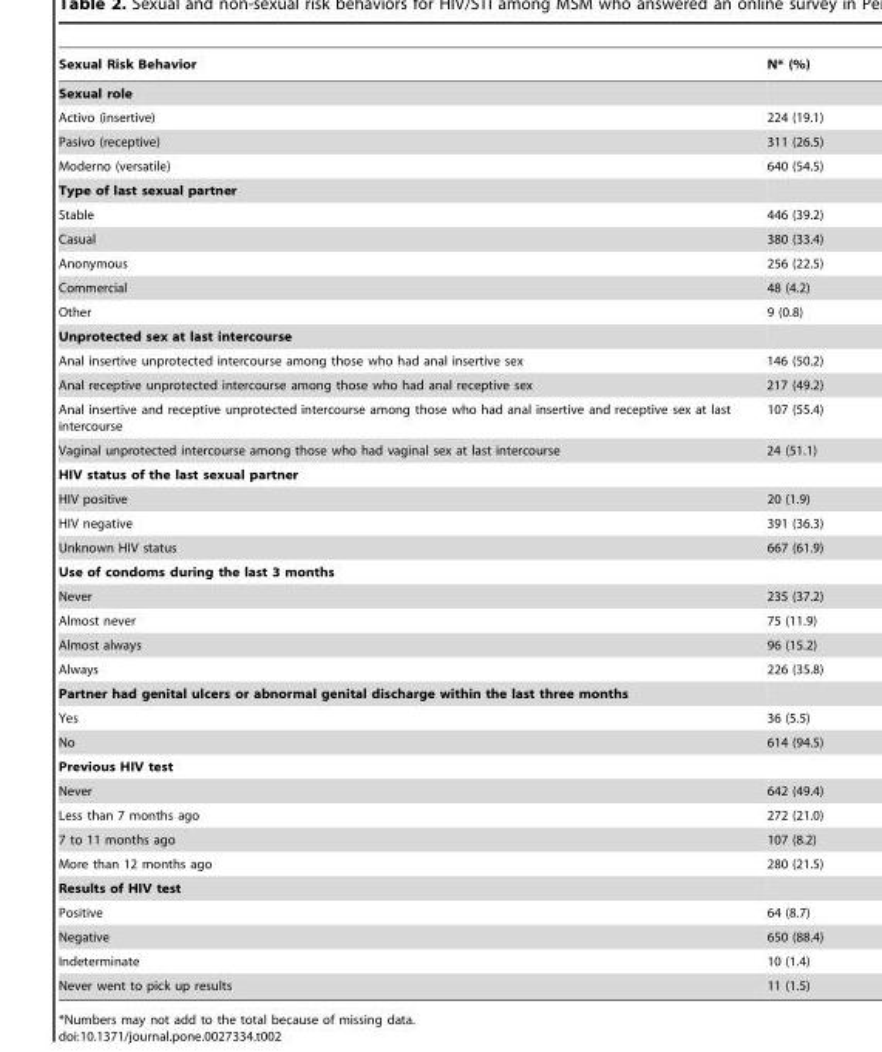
<table><thead><tr><td>Sexual Risk Behavior</td><td>N* (%)</td></tr></thead><tbody><tr><td colspan="2">Sexual role</td></tr><tr><td>Activo (insertive)</td><td>224 (19.1)</td></tr><tr><td>Pasivo (receptive)</td><td>311 (26.5)</td></tr><tr><td>Moderno (versatile)</td><td>640 (54.5)</td></tr><tr><td colspan="2">Type of last sexual partner</td></tr><tr><td>Stable</td><td>446 (39.2)</td></tr><tr><td>Casual</td><td>380 (33.4)</td></tr><tr><td>Anonymous</td><td>256 (22.5)</td></tr><tr><td>Commercial</td><td>48 (4.2)</td></tr><tr><td>Other</td><td>9 (0.8)</td></tr><tr><td colspan="2">Unprotected sex at last intercourse</td></tr><tr><td>Anal insertive unprotected intercourse among those who had anal insertive sex</td><td>146 (50.2)</td></tr><tr><td>Anal receptive unprotected intercourse among those who had anal receptive sex</td><td>217 (49.2)</td></tr><tr><td>Anal insertive and receptive unprotected intercourse among those who had anal insertive and receptive sex at last intercourse</td><td>107 (55.4)</td></tr><tr><td>Vaginal unprotected intercourse among those who had vaginal sex at last intercourse</td><td>24 (51.1)</td></tr><tr><td colspan="2">HIV status of the last sexual partner</td></tr><tr><td>HIV positive</td><td>20 (1.9)</td></tr><tr><td>HIV negative</td><td>391 (36.3)</td></tr><tr><td>Unknown HIV status</td><td>667 (61.9)</td></tr><tr><td colspan="2">Use of condoms during the last 3 months</td></tr><tr><td>Never</td><td>235 (37.2)</td></tr><tr><td>Almost never</td><td>75 (11.9)</td></tr><tr><td>Almost always</td><td>96 (15.2)</td></tr><tr><td>Always</td><td>226 (35.8)</td></tr><tr><td colspan="2">Partner had genital ulcers or abnormal genital discharge within the last three months</td></tr><tr><td>Yes</td><td>36 (5.5)</td></tr><tr><td>No</td><td>614 (94.5)</td></tr><tr><td colspan="2">Previous HIV test</td></tr><tr><td>Never</td><td>642 (49.4)</td></tr><tr><td>Less than 7 months ago</td><td>272 (21.0)</td></tr><tr><td>7 to 11 months ago</td><td>107 (8.2)</td></tr><tr><td>More than 12 months ago</td><td>280 (21.5)</td></tr><tr><td colspan="2">Results of HIV test</td></tr><tr><td>Positive</td><td>64 (8.7)</td></tr><tr><td>Negative</td><td>650 (88.4)</td></tr><tr><td>Indeterminate</td><td>10 (1.4)</td></tr><tr><td>Never went to pick up results</td><td>11 (1.5)</td></tr></tbody></table>